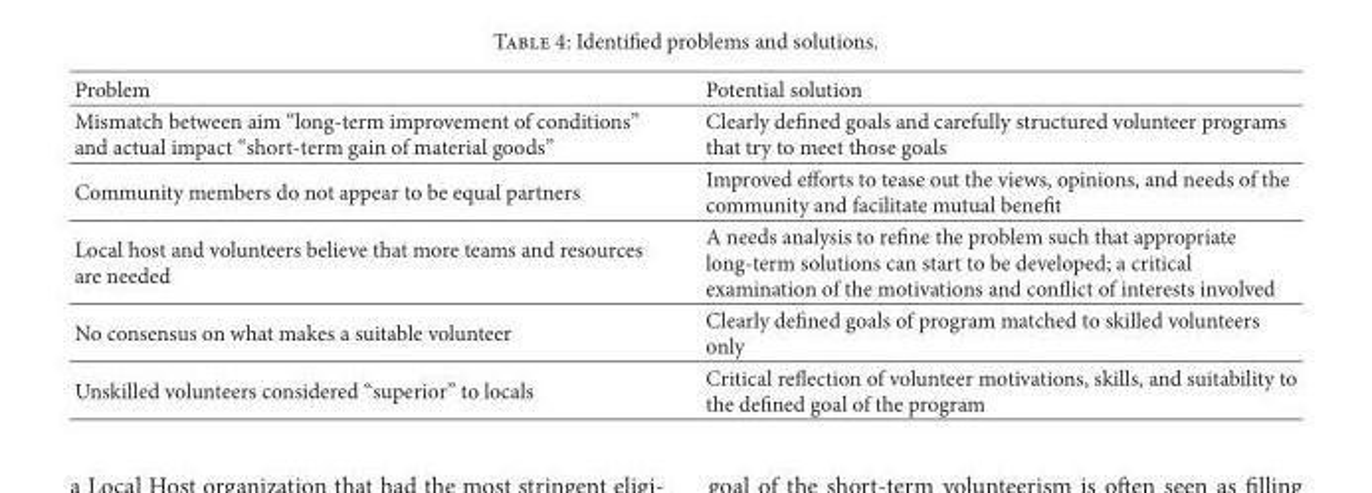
<table><thead><tr><td>Problem</td><td>Potential solution</td></tr></thead><tbody><tr><td>Mismatch between aim “long-term improvement of conditions” and actual impact “short-term gain of material goods”</td><td>Clearly defined goals and carefully structured volunteer programs that try to meet those goals</td></tr><tr><td>Community members do not appear to be equal partners</td><td>Improved efforts to tease out the views, opinions, and needs of the community and facilitate mutual benefit</td></tr><tr><td>Local host and volunteers believe that more teams and resources are needed</td><td>A needs analysis to refine the problem such that appropriate long-term solutions can start to be developed; a critical examination of the motivations and conflict of interests involved</td></tr><tr><td>No consensus on what makes a suitable volunteer</td><td>Clearly defined goals of program matched to skilled volunteers only</td></tr><tr><td>Unskilled volunteers considered “superior” to locals</td><td>Critical reflection of volunteer motivations, skills, and suitability to the defined goal of the program</td></tr></tbody></table>